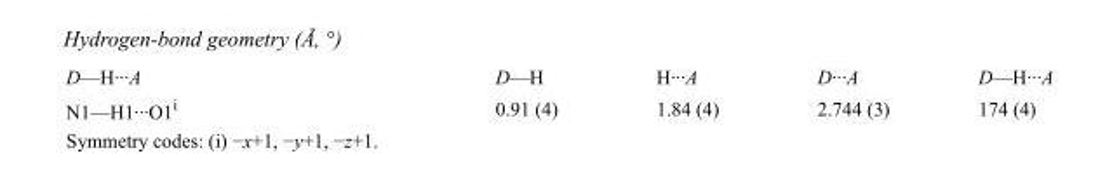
<table><tbody><tr><td>D—H···A</td><td>D—H</td><td>H···A</td><td>D···A</td><td>D—H···A</td></tr><tr><td>N1—H1···O1<sup>i</sup></td><td>0.91 (4)</td><td>1.84 (4)</td><td>2.744 (3)</td><td>174 (4)</td></tr></tbody></table>